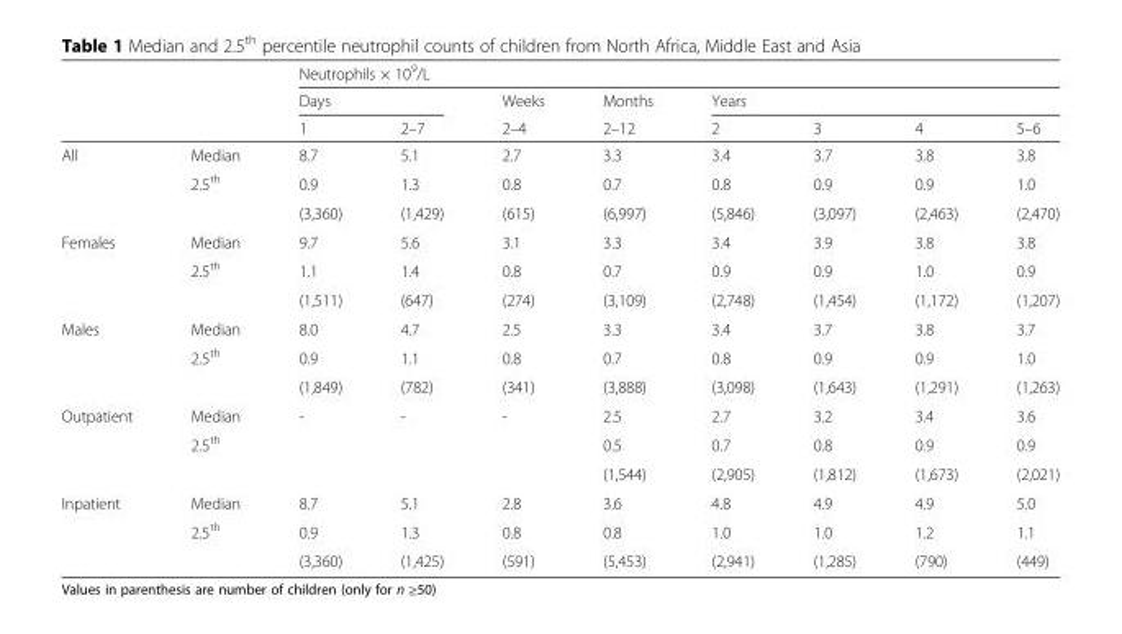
<table><thead><tr><td rowspan="3"></td><td rowspan="3"></td><td colspan="8">Neutrophils × 10<sup>9</sup>/L</td></tr><tr><td colspan="2">Days</td><td rowspan="2">Weeks 2–4</td><td rowspan="2">Months 2–12</td><td colspan="4">Years</td></tr><tr><td>1</td><td>2–7</td><td>2</td><td>3</td><td>4</td><td>5–6</td></tr></thead><tbody><tr><td rowspan="3">All</td><td>Median</td><td>8.7</td><td>5.1</td><td>2.7</td><td>3.3</td><td>3.4</td><td>3.7</td><td>3.8</td><td>3.8</td></tr><tr><td rowspan="2">2.5<sup>th</sup></td><td>0.9</td><td>1.3</td><td>0.8</td><td>0.7</td><td>0.8</td><td>0.9</td><td>0.9</td><td>1.0</td></tr><tr><td>(3,360)</td><td>(1,429)</td><td>(615)</td><td>(6,997)</td><td>(5,846)</td><td>(3,097)</td><td>(2,463)</td><td>(2,470)</td></tr><tr><td rowspan="3">Females</td><td>Median</td><td>9.7</td><td>5.6</td><td>3.1</td><td>3.3</td><td>3.4</td><td>3.9</td><td>3.8</td><td>3.8</td></tr><tr><td rowspan="2">2.5<sup>th</sup></td><td>1.1</td><td>1.4</td><td>0.8</td><td>0.7</td><td>0.9</td><td>0.9</td><td>1.0</td><td>0.9</td></tr><tr><td>(1,511)</td><td>(647)</td><td>(274)</td><td>(3,109)</td><td>(2,748)</td><td>(1,454)</td><td>(1,172)</td><td>(1,207)</td></tr><tr><td rowspan="3">Males</td><td>Median</td><td>8.0</td><td>4.7</td><td>2.5</td><td>3.3</td><td>3.4</td><td>3.7</td><td>3.8</td><td>3.7</td></tr><tr><td rowspan="2">2.5<sup>th</sup></td><td>0.9</td><td>1.1</td><td>0.8</td><td>0.7</td><td>0.8</td><td>0.9</td><td>0.9</td><td>1.0</td></tr><tr><td>(1,849)</td><td>(782)</td><td>(341)</td><td>(3,888)</td><td>(3,098)</td><td>(1,643)</td><td>(1,291)</td><td>(1,263)</td></tr><tr><td rowspan="3">Outpatient</td><td>Median</td><td>-</td><td>-</td><td>-</td><td>2.5</td><td>2.7</td><td>3.2</td><td>3.4</td><td>3.6</td></tr><tr><td rowspan="2">2.5<sup>th</sup></td><td rowspan="2"></td><td rowspan="2"></td><td rowspan="2"></td><td>0.5</td><td>0.7</td><td>0.8</td><td>0.9</td><td>0.9</td></tr><tr><td>(1,544)</td><td>(2,905)</td><td>(1,812)</td><td>(1,673)</td><td>(2,021)</td></tr><tr><td rowspan="3">Inpatient</td><td>Median</td><td>8.7</td><td>5.1</td><td>2.8</td><td>3.6</td><td>4.8</td><td>4.9</td><td>4.9</td><td>5.0</td></tr><tr><td rowspan="2">2.5<sup>th</sup></td><td>0.9</td><td>1.3</td><td>0.8</td><td>0.8</td><td>1.0</td><td>1.0</td><td>1.2</td><td>1.1</td></tr><tr><td>(3,360)</td><td>(1,425)</td><td>(591)</td><td>(5,453)</td><td>(2,941)</td><td>(1,285)</td><td>(790)</td><td>(449)</td></tr></tbody></table>